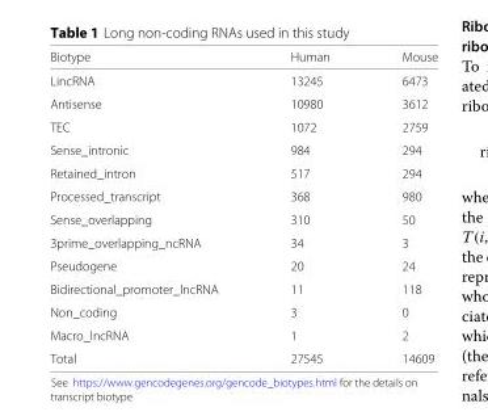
<table><thead><tr><td>Biotype</td><td>Human</td><td>Mouse</td></tr></thead><tbody><tr><td>LincRNA</td><td>13245</td><td>6473</td></tr><tr><td>Antisense</td><td>10980</td><td>3612</td></tr><tr><td>TEC</td><td>1072</td><td>2759</td></tr><tr><td>Sense_intronic</td><td>984</td><td>294</td></tr><tr><td>Retained_intron</td><td>517</td><td>294</td></tr><tr><td>Processed_transcript</td><td>368</td><td>980</td></tr><tr><td>Sense_overlapping</td><td>310</td><td>50</td></tr><tr><td>3prime_overlapping_ncRNA</td><td>34</td><td>3</td></tr><tr><td>Pseudogene</td><td>20</td><td>24</td></tr><tr><td>Bidirectional_promoter_lncRNA</td><td>11</td><td>118</td></tr><tr><td>Non_coding</td><td>3</td><td>0</td></tr><tr><td>Macro_lncRNA</td><td>1</td><td>2</td></tr><tr><td>Total</td><td>27545</td><td>14609</td></tr></tbody></table>